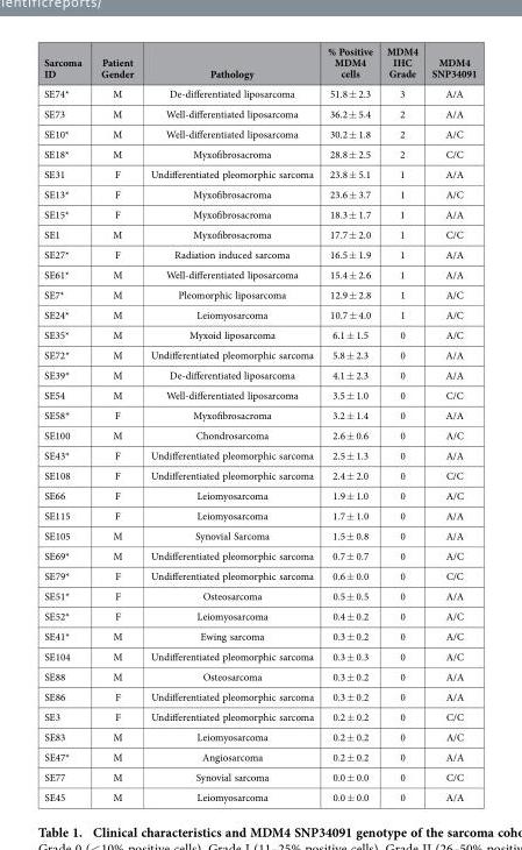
<table><thead><tr><td>Sarcoma ID</td><td>Patient Gender</td><td>Pathology</td><td>% Positive MDM4 cells</td><td>MDM4 IHC Grade</td><td>MDM4 SNP34091</td></tr></thead><tbody><tr><td>SE74*</td><td>M</td><td>De-differentiated liposarcoma</td><td>51.8 ± 2.3</td><td>3</td><td>A/A</td></tr><tr><td>SE73</td><td>M</td><td>Well-differentiated liposarcoma</td><td>36.2 ± 5.4</td><td>2</td><td>A/A</td></tr><tr><td>SE10*</td><td>M</td><td>Well-differentiated liposarcoma</td><td>30.2 ± 1.8</td><td>2</td><td>A/C</td></tr><tr><td>SE18*</td><td>M</td><td>Myxofibrosacroma</td><td>28.8 ± 2.5</td><td>2</td><td>C/C</td></tr><tr><td>SE31</td><td>F</td><td>Undifferentiated pleomorphic sarcoma</td><td>23.8 ± 5.1</td><td>1</td><td>A/A</td></tr><tr><td>SE13*</td><td>F</td><td>Myxofibrosacroma</td><td>23.6 ± 3.7</td><td>1</td><td>A/C</td></tr><tr><td>SE15*</td><td>F</td><td>Myxofibrosacroma</td><td>18.3 ± 1.7</td><td>1</td><td>A/A</td></tr><tr><td>SE1</td><td>M</td><td>Myxofibrosacroma</td><td>17.7 ± 2.0</td><td>1</td><td>C/C</td></tr><tr><td>SE27*</td><td>F</td><td>Radiation induced sarcoma</td><td>16.5 ± 1.9</td><td>1</td><td>A/A</td></tr><tr><td>SE61*</td><td>M</td><td>Well-differentiated liposarcoma</td><td>15.4 ± 2.6</td><td>1</td><td>A/A</td></tr><tr><td>SE7*</td><td>M</td><td>Pleomorphic liposarcoma</td><td>12.9 ± 2.8</td><td>1</td><td>A/C</td></tr><tr><td>SE24*</td><td>M</td><td>Leiomyosarcoma</td><td>10.7 ± 4.0</td><td>1</td><td>A/C</td></tr><tr><td>SE35*</td><td>M</td><td>Myxoid liposarcoma</td><td>6.1 ± 1.5</td><td>0</td><td>A/C</td></tr><tr><td>SE72*</td><td>M</td><td>Undifferentiated pleomorphic sarcoma</td><td>5.8 ± 2.3</td><td>0</td><td>A/A</td></tr><tr><td>SE39*</td><td>M</td><td>De-differentiated liposarcoma</td><td>4.1 ± 2.3</td><td>0</td><td>A/A</td></tr><tr><td>SE54</td><td>M</td><td>Well-differentiated liposarcoma</td><td>3.5 ± 1.0</td><td>0</td><td>C/C</td></tr><tr><td>SE58*</td><td>F</td><td>Myxofibrosacroma</td><td>3.2 ± 1.4</td><td>0</td><td>A/A</td></tr><tr><td>SE100</td><td>M</td><td>Chondrosarcoma</td><td>2.6 ± 0.6</td><td>0</td><td>A/C</td></tr><tr><td>SE43*</td><td>F</td><td>Undifferentiated pleomorphic sarcoma</td><td>2.5 ± 1.3</td><td>0</td><td>A/A</td></tr><tr><td>SE108</td><td>F</td><td>Undifferentiated pleomorphic sarcoma</td><td>2.4 ± 2.0</td><td>0</td><td>C/C</td></tr><tr><td>SE66</td><td>F</td><td>Leiomyosarcoma</td><td>1.9 ± 1.0</td><td>0</td><td>A/C</td></tr><tr><td>SE115</td><td>F</td><td>Leiomyosarcoma</td><td>1.7 ± 1.0</td><td>0</td><td>A/A</td></tr><tr><td>SE105</td><td>M</td><td>Synovial Sarcoma</td><td>1.5 ± 0.8</td><td>0</td><td>A/A</td></tr><tr><td>SE69*</td><td>M</td><td>Undifferentiated pleomorphic sarcoma</td><td>0.7 ± 0.7</td><td>0</td><td>A/C</td></tr><tr><td>SE79*</td><td>F</td><td>Undifferentiated pleomorphic sarcoma</td><td>0.6 ± 0.0</td><td>0</td><td>C/C</td></tr><tr><td>SE51*</td><td>F</td><td>Osteosarcoma</td><td>0.5 ± 0.5</td><td>0</td><td>A/A</td></tr><tr><td>SE52*</td><td>F</td><td>Leiomyosarcoma</td><td>0.4 ± 0.2</td><td>0</td><td>A/C</td></tr><tr><td>SE41*</td><td>M</td><td>Ewing sarcoma</td><td>0.3 ± 0.2</td><td>0</td><td>A/C</td></tr><tr><td>SE104</td><td>M</td><td>Undifferentiated pleomorphic sarcoma</td><td>0.3 ± 0.3</td><td>0</td><td>A/C</td></tr><tr><td>SE88</td><td>M</td><td>Osteosarcoma</td><td>0.3 ± 0.2</td><td>0</td><td>A/A</td></tr><tr><td>SE86</td><td>F</td><td>Undifferentiated pleomorphic sarcoma</td><td>0.3 ± 0.2</td><td>0</td><td>A/A</td></tr><tr><td>SE3</td><td>F</td><td>Undifferentiated pleomorphic sarcoma</td><td>0.2 ± 0.2</td><td>0</td><td>C/C</td></tr><tr><td>SE83</td><td>M</td><td>Leiomyosarcoma</td><td>0.2 ± 0.2</td><td>0</td><td>A/C</td></tr><tr><td>SE47*</td><td>M</td><td>Angiosarcoma</td><td>0.2 ± 0.2</td><td>0</td><td>A/A</td></tr><tr><td>SE77</td><td>M</td><td>Synovial sarcoma</td><td>0.0 ± 0.0</td><td>0</td><td>C/C</td></tr><tr><td>SE45</td><td>M</td><td>Leiomyosarcoma</td><td>0.0 ± 0.0</td><td>0</td><td>A/A</td></tr></tbody></table>